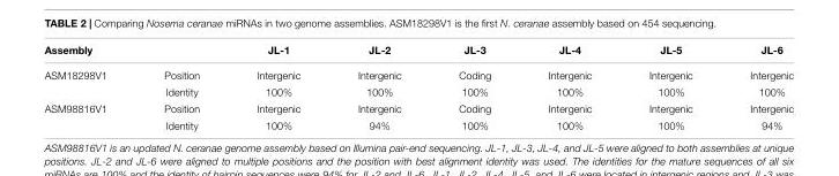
<table><thead><tr><td>Assembly</td><td></td><td>JL-1</td><td>JL-2</td><td>JL-3</td><td>JL-4</td><td>JL-5</td><td>JL-6</td></tr></thead><tbody><tr><td rowspan="2">ASM18298V1</td><td>Position</td><td>Intergenic</td><td>Intergenic</td><td>Coding</td><td>Intergenic</td><td>Intergenic</td><td>Intergenic</td></tr><tr><td>Identity</td><td>100%</td><td>100%</td><td>100%</td><td>100%</td><td>100%</td><td>100%</td></tr><tr><td rowspan="2">ASM98816V1</td><td>Position</td><td>Intergenic</td><td>Intergenic</td><td>Coding</td><td>Intergenic</td><td>Intergenic</td><td>Intergenic</td></tr><tr><td>Identity</td><td>100%</td><td>94%</td><td>100%</td><td>100%</td><td>100%</td><td>94%</td></tr></tbody></table>